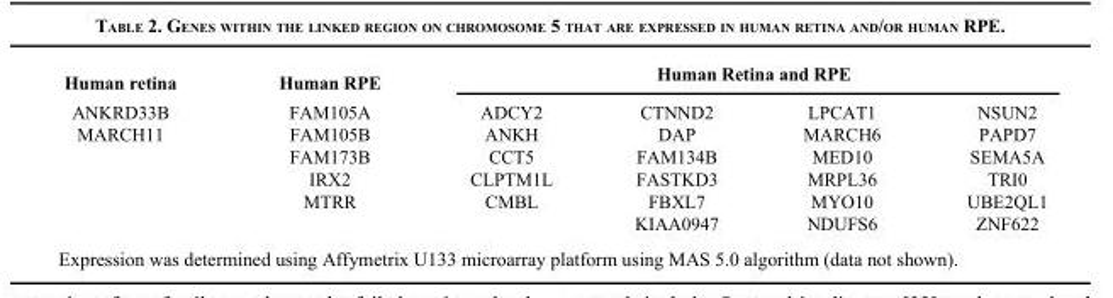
<table><thead><tr><td rowspan="2">Human retina ANKRD33B</td><td rowspan="2">Human RPE FAM105A</td><td colspan="4">Human Retina and RPE</td></tr><tr><td>ADCY2</td><td>CTNND2</td><td>LPCAT1</td><td>NSUN2</td></tr></thead><tbody><tr><td rowspan="5">MARCH11</td><td>FAM105B</td><td>ANKH</td><td>DAP</td><td>MARCH6</td><td>PAPD7</td></tr><tr><td>FAM173B</td><td>CCT5</td><td>FAM134B</td><td>MED10</td><td>SEMA5A</td></tr><tr><td>IRX2</td><td>CLPTM1L</td><td>FASTKD3</td><td>MRPL36</td><td>TRI0</td></tr><tr><td>MTRR</td><td>CMBL</td><td>FBXL7</td><td>MYO10</td><td>UBE2QL1</td></tr><tr><td></td><td></td><td>KIAA0947</td><td>NDUFS6</td><td>ZNF622</td></tr></tbody></table>